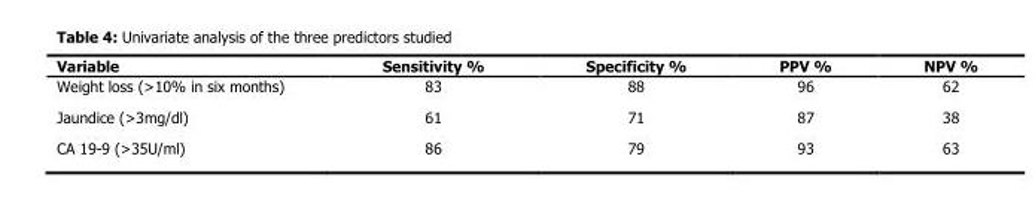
<table><thead><tr><td>Variable</td><td>Sensitivity %</td><td>Specificity %</td><td>PPV %</td><td>NPV %</td></tr></thead><tbody><tr><td>Weight loss (&gt;10% in six months)</td><td>83</td><td>88</td><td>96</td><td>62</td></tr><tr><td>Jaundice (&gt;3mg/dl)</td><td>61</td><td>71</td><td>87</td><td>38</td></tr><tr><td>CA 19-9 (&gt;35U/ml)</td><td>86</td><td>79</td><td>93</td><td>63</td></tr></tbody></table>